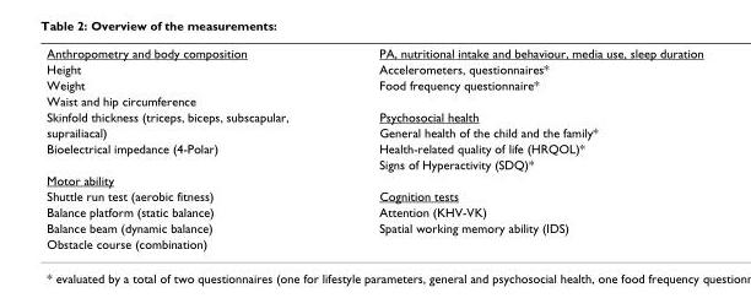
<table><tbody><tr><td>Anthropometry and body composition</td><td>PA, nutritional intake and behaviour, media use, sleep duration</td></tr><tr><td>Height</td><td>Accelerometers, questionnaires*</td></tr><tr><td>Weight</td><td>Food frequency questionnaire*</td></tr><tr><td colspan="2">Waist and hip circumference</td></tr><tr><td>Skinfold thickness (triceps, biceps, subscapular,</td><td>Psychosocial health</td></tr><tr><td>suprailiacal)</td><td>General health of the child and the family*</td></tr><tr><td rowspan="2">Bioelectrical impedance (4-Polar)</td><td>Health-related quality of life (HRQOL)*</td></tr><tr><td>Signs of Hyperactivity (SDQ)*</td></tr><tr><td colspan="2">Motor ability</td></tr><tr><td>Shuttle run test (aerobic fitness)</td><td>Cognition tests</td></tr><tr><td>Balance platform (static balance)</td><td>Attention (KHV-VK)</td></tr><tr><td>Balance beam (dynamic balance)</td><td>Spatial working memory ability (IDS)</td></tr><tr><td>Obstacle course (combination)</td><td></td></tr></tbody></table>